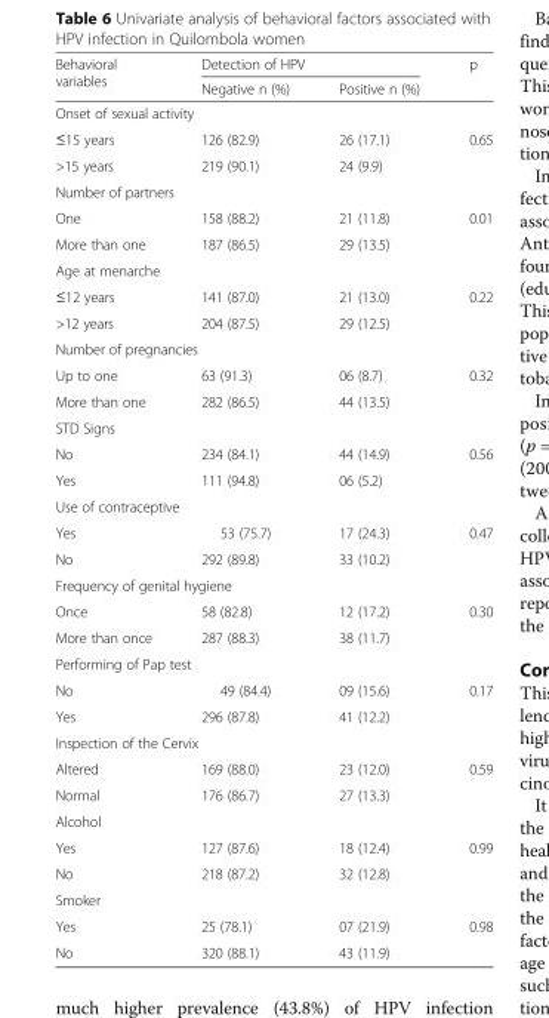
<table><thead><tr><td rowspan="2">Behavioral variables</td><td colspan="2">Detection of HPV</td><td rowspan="2">p</td></tr><tr><td>Negative n (%)</td><td>Positive n (%)</td></tr></thead><tbody><tr><td colspan="4">Onset of sexual activity</td></tr><tr><td>≤15 years</td><td>126 (82.9)</td><td>26 (17.1)</td><td>0.65</td></tr><tr><td>&gt;15 years</td><td>219 (90.1)</td><td>24 (9.9)</td><td></td></tr><tr><td colspan="4">Number of partners</td></tr><tr><td>One</td><td>158 (88.2)</td><td>21 (11.8)</td><td>0.01</td></tr><tr><td>More than one</td><td>187 (86.5)</td><td>29 (13.5)</td><td></td></tr><tr><td colspan="4">Age at menarche</td></tr><tr><td>≤12 years</td><td>141 (87.0)</td><td>21 (13.0)</td><td>0.22</td></tr><tr><td>&gt;12 years</td><td>204 (87.5)</td><td>29 (12.5)</td><td></td></tr><tr><td colspan="4">Number of pregnancies</td></tr><tr><td>Up to one</td><td>63 (91.3)</td><td>06 (8.7)</td><td>0.32</td></tr><tr><td>More than one</td><td>282 (86.5)</td><td>44 (13.5)</td><td></td></tr><tr><td colspan="4">STD Signs</td></tr><tr><td>No</td><td>234 (84.1)</td><td>44 (14.9)</td><td>0.56</td></tr><tr><td>Yes</td><td>111 (94.8)</td><td>06 (5.2)</td><td></td></tr><tr><td colspan="4">Use of contraceptive</td></tr><tr><td>Yes</td><td>53 (75.7)</td><td>17 (24.3)</td><td>0.47</td></tr><tr><td>No</td><td>292 (89.8)</td><td>33 (10.2)</td><td></td></tr><tr><td colspan="4">Frequency of genital hygiene</td></tr><tr><td>Once</td><td>58 (82.8)</td><td>12 (17.2)</td><td>0.30</td></tr><tr><td>More than once</td><td>287 (88.3)</td><td>38 (11.7)</td><td></td></tr><tr><td colspan="4">Performing of Pap test</td></tr><tr><td>No</td><td>49 (84.4)</td><td>09 (15.6)</td><td>0.17</td></tr><tr><td>Yes</td><td>296 (87.8)</td><td>41 (12.2)</td><td></td></tr><tr><td colspan="4">Inspection of the Cervix</td></tr><tr><td>Altered</td><td>169 (88.0)</td><td>23 (12.0)</td><td>0.59</td></tr><tr><td>Normal</td><td>176 (86.7)</td><td>27 (13.3)</td><td></td></tr><tr><td colspan="4">Alcohol</td></tr><tr><td>Yes</td><td>127 (87.6)</td><td>18 (12.4)</td><td>0.99</td></tr><tr><td>No</td><td>218 (87.2)</td><td>32 (12.8)</td><td></td></tr><tr><td colspan="4">Smoker</td></tr><tr><td>Yes</td><td>25 (78.1)</td><td>07 (21.9)</td><td>0.98</td></tr><tr><td>No</td><td>320 (88.1)</td><td>43 (11.9)</td><td></td></tr></tbody></table>